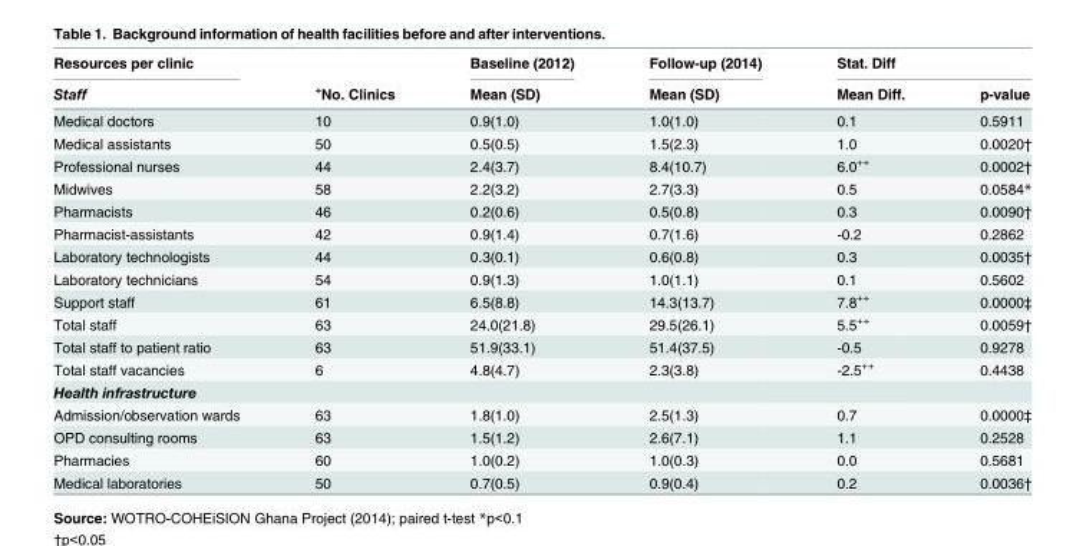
<table><thead><tr><td rowspan="2">Resources per clinic Staff</td><td rowspan="2"><sup>+</sup>No. Clinics</td><td rowspan="2">Baseline (2012) Mean (SD)</td><td rowspan="2">Follow-up (2014) Mean (SD)</td><td colspan="2">Stat. Diff</td></tr><tr><td>Mean Diff.</td><td>p-value</td></tr></thead><tbody><tr><td>Medical doctors</td><td>10</td><td>0.9(1.0)</td><td>1.0(1.0)</td><td>0.1</td><td>0.5911</td></tr><tr><td>Medical assistants</td><td>50</td><td>0.5(0.5)</td><td>1.5(2.3)</td><td>1.0</td><td>0.0020†</td></tr><tr><td>Professional nurses</td><td>44</td><td>2.4(3.7)</td><td>8.4(10.7)</td><td>6.0<sup>++</sup></td><td>0.0002†</td></tr><tr><td>Midwives</td><td>58</td><td>2.2(3.2)</td><td>2.7(3.3)</td><td>0.5</td><td>0.0584*</td></tr><tr><td>Pharmacists</td><td>46</td><td>0.2(0.6)</td><td>0.5(0.8)</td><td>0.3</td><td>0.0090†</td></tr><tr><td>Pharmacist-assistants</td><td>42</td><td>0.9(1.4)</td><td>0.7(1.6)</td><td>-0.2</td><td>0.2862</td></tr><tr><td>Laboratory technologists</td><td>44</td><td>0.3(0.1)</td><td>0.6(0.8)</td><td>0.3</td><td>0.0035†</td></tr><tr><td>Laboratory technicians</td><td>54</td><td>0.9(1.3)</td><td>1.0(1.1)</td><td>0.1</td><td>0.5602</td></tr><tr><td>Support staff</td><td>61</td><td>6.5(8.8)</td><td>14.3(13.7)</td><td>7.8<sup>++</sup></td><td>0.0000‡</td></tr><tr><td>Total staff</td><td>63</td><td>24.0(21.8)</td><td>29.5(26.1)</td><td>5.5<sup>++</sup></td><td>0.0059†</td></tr><tr><td>Total staff to patient ratio</td><td>63</td><td>51.9(33.1)</td><td>51.4(37.5)</td><td>-0.5</td><td>0.9278</td></tr><tr><td>Total staff vacancies</td><td>6</td><td>4.8(4.7)</td><td>2.3(3.8)</td><td>-2.5<sup>++</sup></td><td>0.4438</td></tr><tr><td colspan="6">Health infrastructure</td></tr><tr><td>Admission/observation wards</td><td>63</td><td>1.8(1.0)</td><td>2.5(1.3)</td><td>0.7</td><td>0.0000‡</td></tr><tr><td>OPD consulting rooms</td><td>63</td><td>1.5(1.2)</td><td>2.6(7.1)</td><td>1.1</td><td>0.2528</td></tr><tr><td>Pharmacies</td><td>60</td><td>1.0(0.2)</td><td>1.0(0.3)</td><td>0.0</td><td>0.5681</td></tr><tr><td>Medical laboratories</td><td>50</td><td>0.7(0.5)</td><td>0.9(0.4)</td><td>0.2</td><td>0.0036†</td></tr></tbody></table>